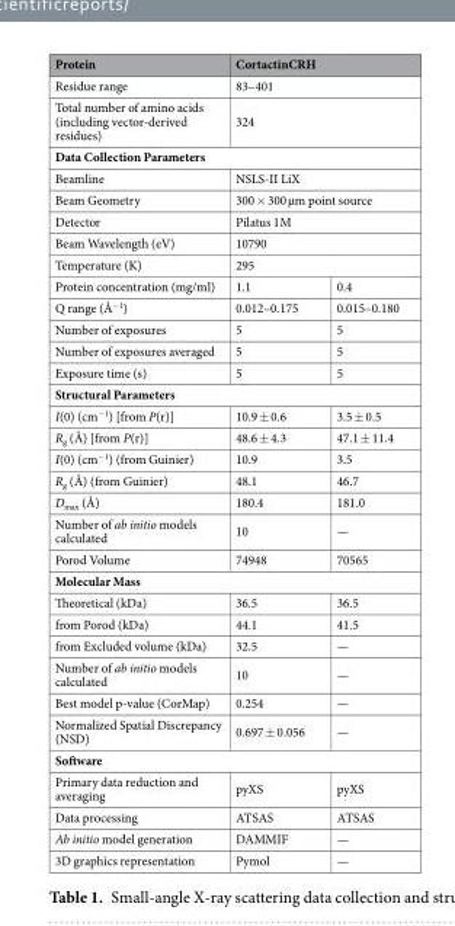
<table><thead><tr><td>Protein</td><td colspan="2">CortactinCRH</td></tr></thead><tbody><tr><td>Residue range</td><td colspan="2">83–401</td></tr><tr><td>Total number of amino acids (including vector-derived residues)</td><td colspan="2">324</td></tr><tr><td colspan="3">Data Collection Parameters</td></tr><tr><td>Beamline</td><td colspan="2">NSLS-II LiX</td></tr><tr><td>Beam Geometry</td><td colspan="2">300 × 300 µm point source</td></tr><tr><td>Detector</td><td colspan="2">Pilatus 1M</td></tr><tr><td>Beam Wavelength (eV)</td><td colspan="2">10790</td></tr><tr><td>Temperature (K)</td><td colspan="2">295</td></tr><tr><td>Protein concentration (mg/ml)</td><td>1.1</td><td>0.4</td></tr><tr><td>Q range (Å<sup>−1</sup>)</td><td>0.012–0.175</td><td>0.015–0.180</td></tr><tr><td>Number of exposures</td><td>5</td><td>5</td></tr><tr><td>Number of exposures averaged</td><td>5</td><td>5</td></tr><tr><td>Exposure time (s)</td><td>5</td><td>5</td></tr><tr><td colspan="3">Structural Parameters</td></tr><tr><td>I(0) (cm<sup>−1</sup>) [from P(r)]</td><td>10.9 ± 0.6</td><td>3.5 ± 0.5</td></tr><tr><td>R<sub>g</sub> (Å) [from P(r)]</td><td>48.6 ± 4.3</td><td>47.1 ± 11.4</td></tr><tr><td>I(0) (cm<sup>−1</sup>) (from Guinier)</td><td>10.9</td><td>3.5</td></tr><tr><td>R<sub>g</sub> (Å) (from Guinier)</td><td>48.1</td><td>46.7</td></tr><tr><td>D<sub>max</sub> (Å)</td><td>180.4</td><td>181.0</td></tr><tr><td>Number of ab initio models calculated</td><td>10</td><td>—</td></tr><tr><td>Porod Volume</td><td>74948</td><td>70565</td></tr><tr><td colspan="3">Molecular Mass</td></tr><tr><td>Theoretical (kDa)</td><td>36.5</td><td>36.5</td></tr><tr><td>from Porod (kDa)</td><td>44.1</td><td>41.5</td></tr><tr><td>from Excluded volume (kDa)</td><td>32.5</td><td>—</td></tr><tr><td>Number of ab initio models calculated</td><td>10</td><td>—</td></tr><tr><td>Best model p-value (CorMap)</td><td>0.254</td><td>—</td></tr><tr><td>Normalized Spatial Discrepancy (NSD)</td><td>0.697 ± 0.056</td><td>—</td></tr><tr><td colspan="3">Software</td></tr><tr><td>Primary data reduction and averaging</td><td>pyXS</td><td>pyXS</td></tr><tr><td>Data processing</td><td>ATSAS</td><td>ATSAS</td></tr><tr><td>Ab initio model generation</td><td>DAMMIF</td><td>—</td></tr><tr><td>3D graphics representation</td><td>Pymol</td><td>—</td></tr></tbody></table>